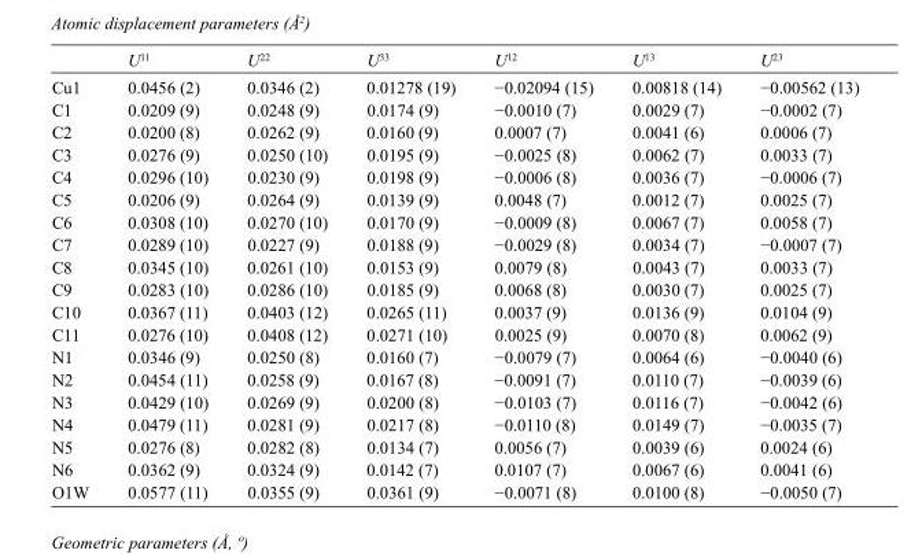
<table><thead><tr><td></td><td>U<sup>11</sup></td><td>U<sup>22</sup></td><td>U<sup>33</sup></td><td>U<sup>12</sup></td><td>U<sup>13</sup></td><td>U<sup>23</sup></td></tr></thead><tbody><tr><td>Cu1</td><td>0.0456 (2)</td><td>0.0346 (2)</td><td>0.01278 (19)</td><td>−0.02094 (15)</td><td>0.00818 (14)</td><td>−0.00562 (13)</td></tr><tr><td>C1</td><td>0.0209 (9)</td><td>0.0248 (9)</td><td>0.0174 (9)</td><td>−0.0010 (7)</td><td>0.0029 (7)</td><td>−0.0002 (7)</td></tr><tr><td>C2</td><td>0.0200 (8)</td><td>0.0262 (9)</td><td>0.0160 (9)</td><td>0.0007 (7)</td><td>0.0041 (6)</td><td>0.0006 (7)</td></tr><tr><td>C3</td><td>0.0276 (9)</td><td>0.0250 (10)</td><td>0.0195 (9)</td><td>−0.0025 (8)</td><td>0.0062 (7)</td><td>0.0033 (7)</td></tr><tr><td>C4</td><td>0.0296 (10)</td><td>0.0230 (9)</td><td>0.0198 (9)</td><td>−0.0006 (8)</td><td>0.0036 (7)</td><td>−0.0006 (7)</td></tr><tr><td>C5</td><td>0.0206 (9)</td><td>0.0264 (9)</td><td>0.0139 (9)</td><td>0.0048 (7)</td><td>0.0012 (7)</td><td>0.0025 (7)</td></tr><tr><td>C6</td><td>0.0308 (10)</td><td>0.0270 (10)</td><td>0.0170 (9)</td><td>−0.0009 (8)</td><td>0.0067 (7)</td><td>0.0058 (7)</td></tr><tr><td>C7</td><td>0.0289 (10)</td><td>0.0227 (9)</td><td>0.0188 (9)</td><td>−0.0029 (8)</td><td>0.0034 (7)</td><td>−0.0007 (7)</td></tr><tr><td>C8</td><td>0.0345 (10)</td><td>0.0261 (10)</td><td>0.0153 (9)</td><td>0.0079 (8)</td><td>0.0043 (7)</td><td>0.0033 (7)</td></tr><tr><td>C9</td><td>0.0283 (10)</td><td>0.0286 (10)</td><td>0.0185 (9)</td><td>0.0068 (8)</td><td>0.0030 (7)</td><td>0.0025 (7)</td></tr><tr><td>C10</td><td>0.0367 (11)</td><td>0.0403 (12)</td><td>0.0265 (11)</td><td>0.0037 (9)</td><td>0.0136 (9)</td><td>0.0104 (9)</td></tr><tr><td>C11</td><td>0.0276 (10)</td><td>0.0408 (12)</td><td>0.0271 (10)</td><td>0.0025 (9)</td><td>0.0070 (8)</td><td>0.0062 (9)</td></tr><tr><td>N1</td><td>0.0346 (9)</td><td>0.0250 (8)</td><td>0.0160 (7)</td><td>−0.0079 (7)</td><td>0.0064 (6)</td><td>−0.0040 (6)</td></tr><tr><td>N2</td><td>0.0454 (11)</td><td>0.0258 (9)</td><td>0.0167 (8)</td><td>−0.0091 (7)</td><td>0.0110 (7)</td><td>−0.0039 (6)</td></tr><tr><td>N3</td><td>0.0429 (10)</td><td>0.0269 (9)</td><td>0.0200 (8)</td><td>−0.0103 (7)</td><td>0.0116 (7)</td><td>−0.0042 (6)</td></tr><tr><td>N4</td><td>0.0479 (11)</td><td>0.0281 (9)</td><td>0.0217 (8)</td><td>−0.0110 (8)</td><td>0.0149 (7)</td><td>−0.0035 (7)</td></tr><tr><td>N5</td><td>0.0276 (8)</td><td>0.0282 (8)</td><td>0.0134 (7)</td><td>0.0056 (7)</td><td>0.0039 (6)</td><td>0.0024 (6)</td></tr><tr><td>N6</td><td>0.0362 (9)</td><td>0.0324 (9)</td><td>0.0142 (7)</td><td>0.0107 (7)</td><td>0.0067 (6)</td><td>0.0041 (6)</td></tr><tr><td>O1W</td><td>0.0577 (11)</td><td>0.0355 (9)</td><td>0.0361 (9)</td><td>−0.0071 (8)</td><td>0.0100 (8)</td><td>−0.0050 (7)</td></tr></tbody></table>